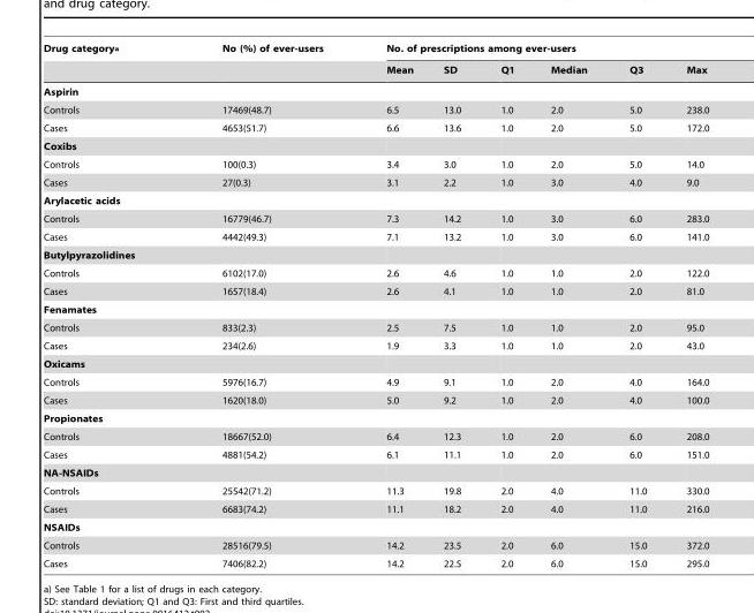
<table><thead><tr><td rowspan="2">Drug category<sup>a</sup></td><td rowspan="2">No (%) of ever-users</td><td colspan="6">No. of prescriptions among ever-users</td></tr><tr><td>Mean</td><td>SD</td><td>Q1</td><td>Median</td><td>Q3</td><td>Max</td></tr></thead><tbody><tr><td colspan="8">Aspirin</td></tr><tr><td>Controls</td><td>17469(48.7)</td><td>6.5</td><td>13.0</td><td>1.0</td><td>2.0</td><td>5.0</td><td>238.0</td></tr><tr><td>Cases</td><td>4653(51.7)</td><td>6.6</td><td>13.6</td><td>1.0</td><td>2.0</td><td>5.0</td><td>172.0</td></tr><tr><td colspan="8">Coxibs</td></tr><tr><td>Controls</td><td>100(0.3)</td><td>3.4</td><td>3.0</td><td>1.0</td><td>2.0</td><td>5.0</td><td>14.0</td></tr><tr><td>Cases</td><td>27(0.3)</td><td>3.1</td><td>2.2</td><td>1.0</td><td>3.0</td><td>4.0</td><td>9.0</td></tr><tr><td colspan="8">Arylacetic acids</td></tr><tr><td>Controls</td><td>16779(46.7)</td><td>7.3</td><td>14.2</td><td>1.0</td><td>3.0</td><td>6.0</td><td>283.0</td></tr><tr><td>Cases</td><td>4442(49.3)</td><td>7.1</td><td>13.2</td><td>1.0</td><td>3.0</td><td>6.0</td><td>141.0</td></tr><tr><td colspan="8">Butylpyrazolidines</td></tr><tr><td>Controls</td><td>6102(17.0)</td><td>2.6</td><td>4.6</td><td>1.0</td><td>1.0</td><td>2.0</td><td>122.0</td></tr><tr><td>Cases</td><td>1657(18.4)</td><td>2.6</td><td>4.1</td><td>1.0</td><td>1.0</td><td>2.0</td><td>81.0</td></tr><tr><td colspan="8">Fenamates</td></tr><tr><td>Controls</td><td>833(2.3)</td><td>2.5</td><td>7.5</td><td>1.0</td><td>1.0</td><td>2.0</td><td>95.0</td></tr><tr><td>Cases</td><td>234(2.6)</td><td>1.9</td><td>3.3</td><td>1.0</td><td>1.0</td><td>2.0</td><td>43.0</td></tr><tr><td colspan="8">Oxicams</td></tr><tr><td>Controls</td><td>5976(16.7)</td><td>4.9</td><td>9.1</td><td>1.0</td><td>2.0</td><td>4.0</td><td>164.0</td></tr><tr><td>Cases</td><td>1620(18.0)</td><td>5.0</td><td>9.2</td><td>1.0</td><td>2.0</td><td>4.0</td><td>100.0</td></tr><tr><td colspan="8">Propionates</td></tr><tr><td>Controls</td><td>18667(52.0)</td><td>6.4</td><td>12.3</td><td>1.0</td><td>2.0</td><td>6.0</td><td>208.0</td></tr><tr><td>Cases</td><td>4881(54.2)</td><td>6.1</td><td>11.1</td><td>1.0</td><td>2.0</td><td>6.0</td><td>151.0</td></tr><tr><td colspan="8">NA-NSAIDs</td></tr><tr><td>Controls</td><td>25542(71.2)</td><td>11.3</td><td>19.8</td><td>2.0</td><td>4.0</td><td>11.0</td><td>330.0</td></tr><tr><td>Cases</td><td>6683(74.2)</td><td>11.1</td><td>18.2</td><td>2.0</td><td>4.0</td><td>11.0</td><td>216.0</td></tr><tr><td colspan="8">NSAIDs</td></tr><tr><td>Controls</td><td>28516(79.5)</td><td>14.2</td><td>23.5</td><td>2.0</td><td>6.0</td><td>15.0</td><td>372.0</td></tr><tr><td>Cases</td><td>7406(82.2)</td><td>14.2</td><td>22.5</td><td>2.0</td><td>6.0</td><td>15.0</td><td>295.0</td></tr></tbody></table>